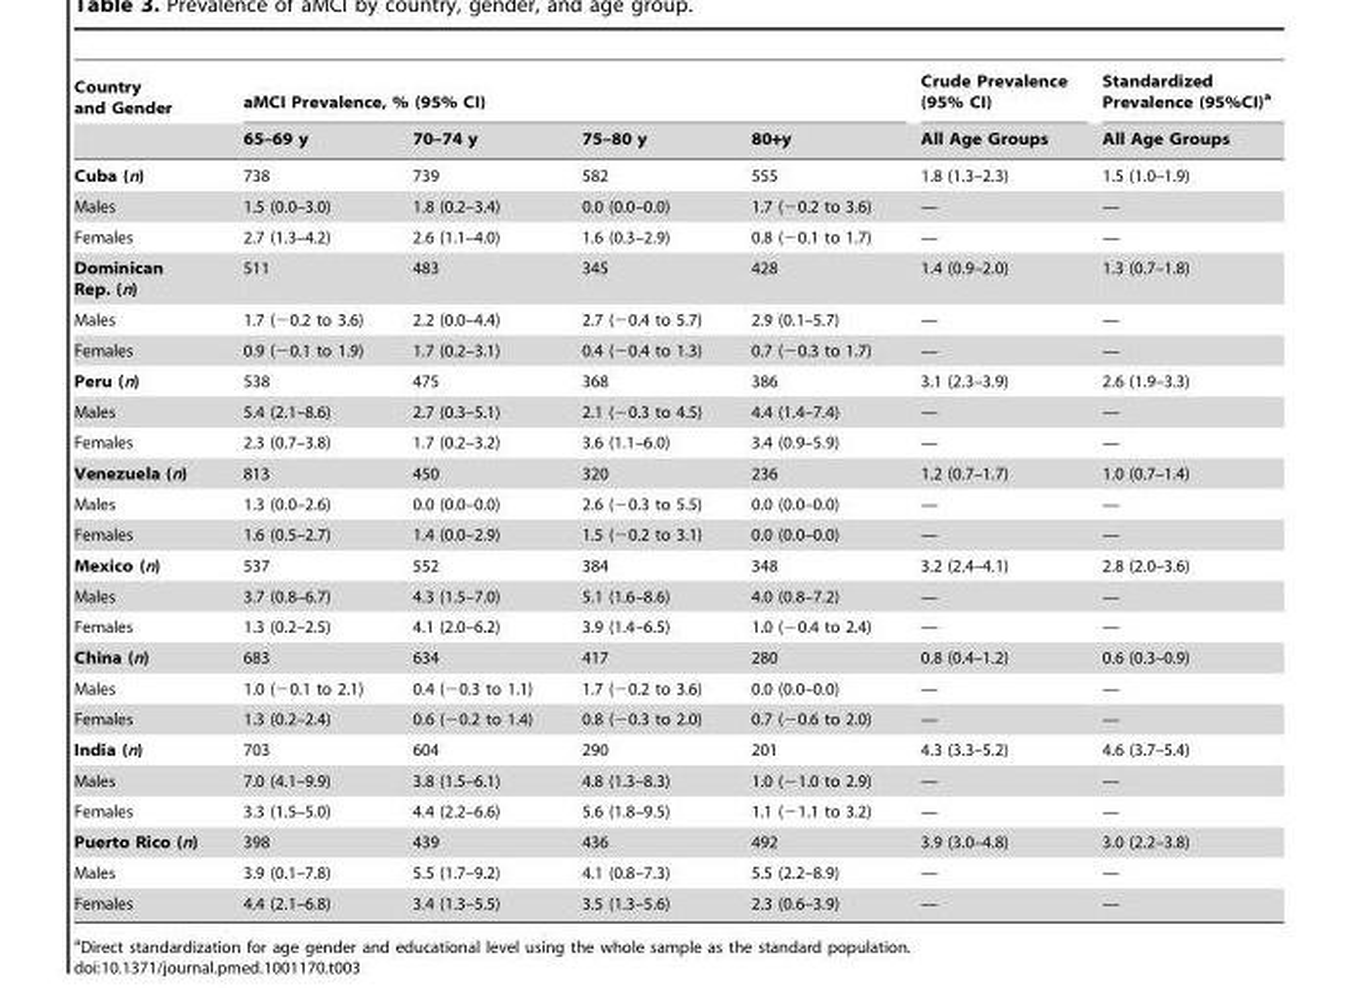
<table><thead><tr><td rowspan="2">Country and Gender</td><td colspan="4">aMCI Prevalence, % (95% CI)</td><td rowspan="2">Crude Prevalence (95% CI) All Age Groups</td><td rowspan="2">Standardized Prevalence (95%CI)<sup>a</sup> All Age Groups</td></tr><tr><td>65–69 y</td><td>70–74 y</td><td>75–80 y</td><td>80+y</td></tr></thead><tbody><tr><td>Cuba (n)</td><td>738</td><td>739</td><td>582</td><td>555</td><td>1.8 (1.3–2.3)</td><td>1.5 (1.0–1.9)</td></tr><tr><td>Males</td><td>1.5 (0.0–3.0)</td><td>1.8 (0.2–3.4)</td><td>0.0 (0.0–0.0)</td><td>1.7 (−0.2 to 3.6)</td><td>—</td><td>—</td></tr><tr><td>Females</td><td>2.7 (1.3–4.2)</td><td>2.6 (1.1–4.0)</td><td>1.6 (0.3–2.9)</td><td>0.8 (−0.1 to 1.7)</td><td>—</td><td>—</td></tr><tr><td>Dominican Rep. (n)</td><td>511</td><td>483</td><td>345</td><td>428</td><td>1.4 (0.9–2.0)</td><td>1.3 (0.7–1.8)</td></tr><tr><td>Males</td><td>1.7 (−0.2 to 3.6)</td><td>2.2 (0.0–4.4)</td><td>2.7 (−0.4 to 5.7)</td><td>2.9 (0.1–5.7)</td><td>—</td><td>—</td></tr><tr><td>Females</td><td>0.9 (−0.1 to 1.9)</td><td>1.7 (0.2–3.1)</td><td>0.4 (−0.4 to 1.3)</td><td>0.7 (−0.3 to 1.7)</td><td>—</td><td>—</td></tr><tr><td>Peru (n)</td><td>538</td><td>475</td><td>368</td><td>386</td><td>3.1 (2.3–3.9)</td><td>2.6 (1.9–3.3)</td></tr><tr><td>Males</td><td>5.4 (2.1–8.6)</td><td>2.7 (0.3–5.1)</td><td>2.1 (−0.3 to 4.5)</td><td>4.4 (1.4–7.4)</td><td>—</td><td>—</td></tr><tr><td>Females</td><td>2.3 (0.7–3.8)</td><td>1.7 (0.2–3.2)</td><td>3.6 (1.1–6.0)</td><td>3.4 (0.9–5.9)</td><td>—</td><td>—</td></tr><tr><td>Venezuela (n)</td><td>813</td><td>450</td><td>320</td><td>236</td><td>1.2 (0.7–1.7)</td><td>1.0 (0.7–1.4)</td></tr><tr><td>Males</td><td>1.3 (0.0–2.6)</td><td>0.0 (0.0–0.0)</td><td>2.6 (−0.3 to 5.5)</td><td>0.0 (0.0–0.0)</td><td>—</td><td>—</td></tr><tr><td>Females</td><td>1.6 (0.5–2.7)</td><td>1.4 (0.0–2.9)</td><td>1.5 (−0.2 to 3.1)</td><td>0.0 (0.0–0.0)</td><td>—</td><td>—</td></tr><tr><td>Mexico (n)</td><td>537</td><td>552</td><td>384</td><td>348</td><td>3.2 (2.4–4.1)</td><td>2.8 (2.0–3.6)</td></tr><tr><td>Males</td><td>3.7 (0.8–6.7)</td><td>4.3 (1.5–7.0)</td><td>5.1 (1.6–8.6)</td><td>4.0 (0.8–7.2)</td><td>—</td><td>—</td></tr><tr><td>Females</td><td>1.3 (0.2–2.5)</td><td>4.1 (2.0–6.2)</td><td>3.9 (1.4–6.5)</td><td>1.0 (−0.4 to 2.4)</td><td>—</td><td>—</td></tr><tr><td>China (n)</td><td>683</td><td>634</td><td>417</td><td>280</td><td>0.8 (0.4–1.2)</td><td>0.6 (0.3–0.9)</td></tr><tr><td>Males</td><td>1.0 (−0.1 to 2.1)</td><td>0.4 (−0.3 to 1.1)</td><td>1.7 (−0.2 to 3.6)</td><td>0.0 (0.0–0.0)</td><td>—</td><td>—</td></tr><tr><td>Females</td><td>1.3 (0.2–2.4)</td><td>0.6 (−0.2 to 1.4)</td><td>0.8 (−0.3 to 2.0)</td><td>0.7 (−0.6 to 2.0)</td><td>—</td><td>—</td></tr><tr><td>India (n)</td><td>703</td><td>604</td><td>290</td><td>201</td><td>4.3 (3.3–5.2)</td><td>4.6 (3.7–5.4)</td></tr><tr><td>Males</td><td>7.0 (4.1–9.9)</td><td>3.8 (1.5–6.1)</td><td>4.8 (1.3–8.3)</td><td>1.0 (−1.0 to 2.9)</td><td>—</td><td>—</td></tr><tr><td>Females</td><td>3.3 (1.5–5.0)</td><td>4.4 (2.2–6.6)</td><td>5.6 (1.8–9.5)</td><td>1.1 (−1.1 to 3.2)</td><td>—</td><td>—</td></tr><tr><td>Puerto Rico (n)</td><td>398</td><td>439</td><td>436</td><td>492</td><td>3.9 (3.0–4.8)</td><td>3.0 (2.2–3.8)</td></tr><tr><td>Males</td><td>3.9 (0.1–7.8)</td><td>5.5 (1.7–9.2)</td><td>4.1 (0.8–7.3)</td><td>5.5 (2.2–8.9)</td><td>—</td><td>—</td></tr><tr><td>Females</td><td>4.4 (2.1–6.8)</td><td>3.4 (1.3–5.5)</td><td>3.5 (1.3–5.6)</td><td>2.3 (0.6–3.9)</td><td>—</td><td>—</td></tr></tbody></table>